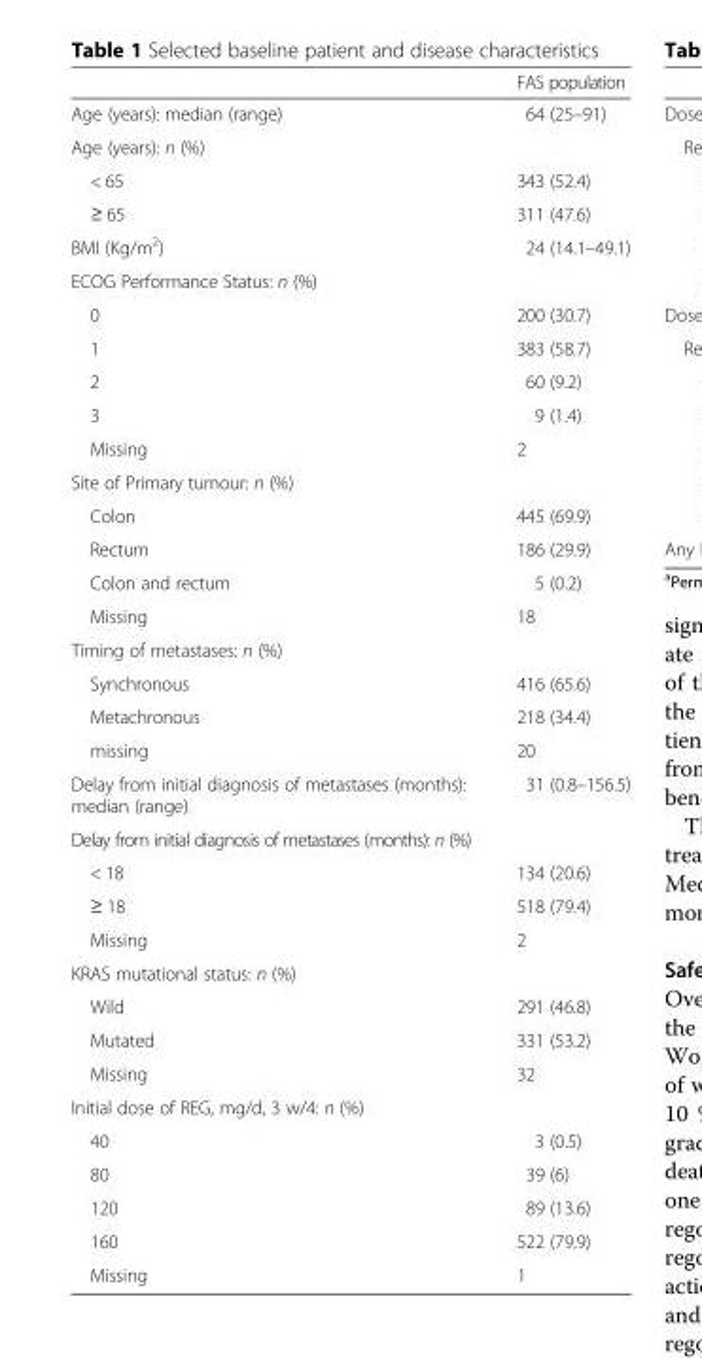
<table><thead><tr><td></td><td>FAS population</td></tr></thead><tbody><tr><td>Age (years): median (range)</td><td>64 (25–91)</td></tr><tr><td colspan="2">Age (years): n (%)</td></tr><tr><td>&lt; 65</td><td>343 (52.4)</td></tr><tr><td>≥ 65</td><td>311 (47.6)</td></tr><tr><td>BMI (Kg/m<sup>2</sup>)</td><td>24 (14.1–49.1)</td></tr><tr><td colspan="2">ECOG Performance Status: n (%)</td></tr><tr><td>0</td><td>200 (30.7)</td></tr><tr><td>1</td><td>383 (58.7)</td></tr><tr><td>2</td><td>60 (9.2)</td></tr><tr><td>3</td><td>9 (1.4)</td></tr><tr><td>Missing</td><td>2</td></tr><tr><td colspan="2">Site of Primary tumour: n (%)</td></tr><tr><td>Colon</td><td>445 (69.9)</td></tr><tr><td>Rectum</td><td>186 (29.9)</td></tr><tr><td>Colon and rectum</td><td>5 (0.2)</td></tr><tr><td>Missing</td><td>18</td></tr><tr><td colspan="2">Timing of metastases: n (%)</td></tr><tr><td>Synchronous</td><td>416 (65.6)</td></tr><tr><td>Metachronous</td><td>218 (34.4)</td></tr><tr><td>missing</td><td>20</td></tr><tr><td>Delay from initial diagnosis of metastases (months): median (range)</td><td>31 (0.8–156.5)</td></tr><tr><td colspan="2">Delay from initial diagnosis of metastases (months): n (%)</td></tr><tr><td>&lt; 18</td><td>134 (20.6)</td></tr><tr><td>≥ 18</td><td>518 (79.4)</td></tr><tr><td>Missing</td><td>2</td></tr><tr><td colspan="2">KRAS mutational status: n (%)</td></tr><tr><td>Wild</td><td>291 (46.8)</td></tr><tr><td>Mutated</td><td>331 (53.2)</td></tr><tr><td>Missing</td><td>32</td></tr><tr><td colspan="2">Initial dose of REG, mg/d, 3 w/4: n (%)</td></tr><tr><td>40</td><td>3 (0.5)</td></tr><tr><td>80</td><td>39 (6)</td></tr><tr><td>120</td><td>89 (13.6)</td></tr><tr><td>160</td><td>522 (79.9)</td></tr><tr><td>Missing</td><td>1</td></tr></tbody></table>